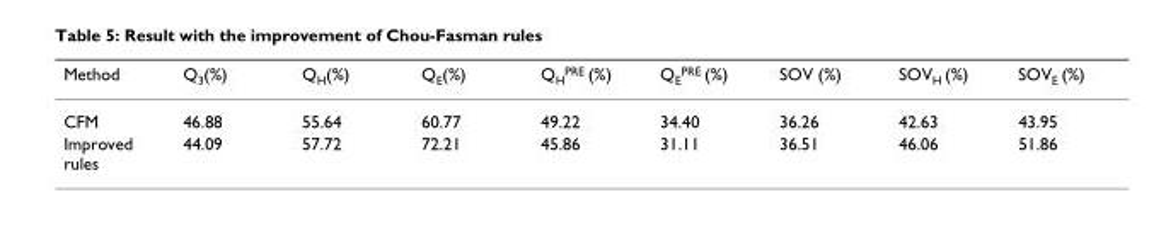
<table><thead><tr><td>Method</td><td>Q3(%)</td><td>QH(%)</td><td>QE(%)</td><td>QHPRE (%)</td><td>QEPRE (%)</td><td>SOV (%)</td><td>SOVH (%)</td><td>SOVE (%)</td></tr></thead><tbody><tr><td>CFM</td><td>46.88</td><td>55.64</td><td>60.77</td><td>49.22</td><td>34.40</td><td>36.26</td><td>42.63</td><td>43.95</td></tr><tr><td>Improved rules</td><td>44.09</td><td>57.72</td><td>72.21</td><td>45.86</td><td>31.11</td><td>36.51</td><td>46.06</td><td>51.86</td></tr></tbody></table>